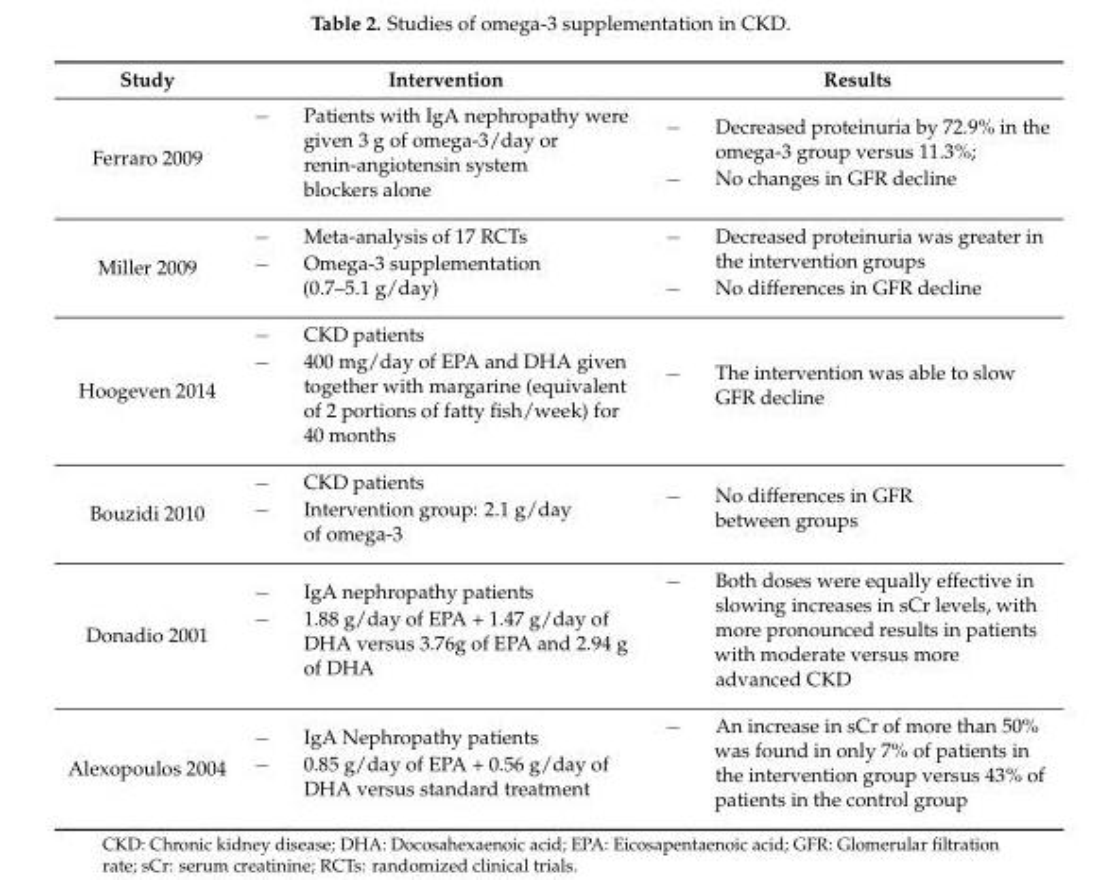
<table><thead><tr><td>Study</td><td>Intervention</td><td>Results</td></tr></thead><tbody><tr><td>Ferraro 2009</td><td>− Patients with IgA nephropathy were given 3 g of omega-3/day or renin-angiotensin system blockers alone</td><td>− Decreased proteinuria by 72.9% in the omega-3 group versus 11.3%; − No changes in GFR decline</td></tr><tr><td>Miller 2009</td><td>− Meta-analysis of 17 RCTs − Omega-3 supplementation (0.7–5.1 g/day)</td><td>− Decreased proteinuria was greater in the intervention groups − No differences in GFR decline</td></tr><tr><td>Hoogeven 2014</td><td>− CKD patients − 400 mg/day of EPA and DHA given together with margarine (equivalent of 2 portions of fatty fish/week) for 40 months</td><td>− The intervention was able to slow GFR decline</td></tr><tr><td>Bouzidi 2010</td><td>− CKD patients − Intervention group: 2.1 g/day of omega-3</td><td>− No differences in GFR between groups</td></tr><tr><td>Donadio 2001</td><td>− IgA nephropathy patients − 1.88 g/day of EPA + 1.47 g/day of DHA versus 3.76g of EPA and 2.94 g of DHA</td><td>− Both doses were equally effective in slowing increases in sCr levels, with more pronounced results in patients with moderate versus more advanced CKD</td></tr><tr><td>Alexopoulos 2004</td><td>− IgA Nephropathy patients − 0.85 g/day of EPA + 0.56 g/day of DHA versus standard treatment</td><td>− An increase in sCr of more than 50% was found in only 7% of patients in the intervention group versus 43% of patients in the control group</td></tr></tbody></table>